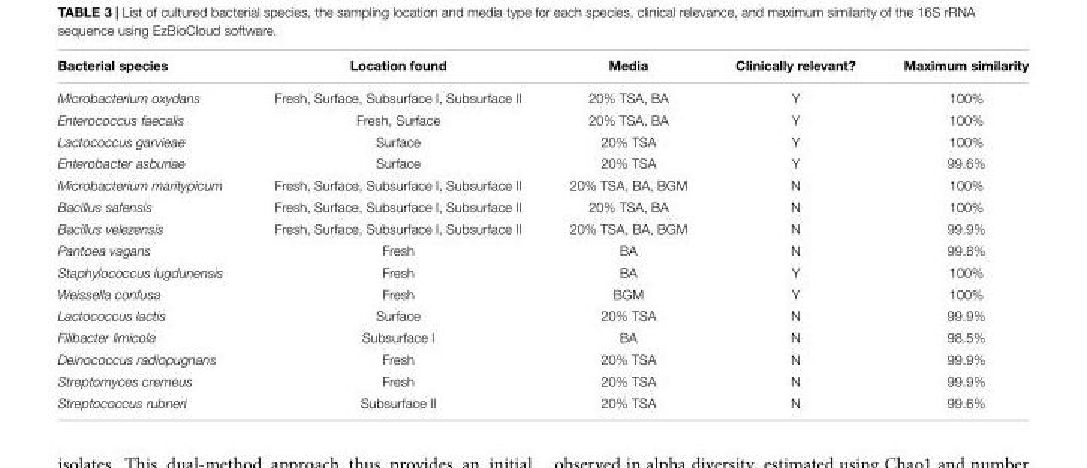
<table><thead><tr><td>Bacterial species</td><td>Location found</td><td>Media</td><td>Clinically relevant?</td><td>Maximum similarity</td></tr></thead><tbody><tr><td>Microbacterium oxydans</td><td>Fresh, Surface, Subsurface I, Subsurface II</td><td>20% TSA, BA</td><td>Y</td><td>100%</td></tr><tr><td>Enterococcus faecalis</td><td>Fresh, Surface</td><td>20% TSA, BA</td><td>Y</td><td>100%</td></tr><tr><td>Lactococcus garvieae</td><td>Surface</td><td>20% TSA</td><td>Y</td><td>100%</td></tr><tr><td>Enterobacter asburiae</td><td>Surface</td><td>20% TSA</td><td>Y</td><td>99.6%</td></tr><tr><td>Microbacterium maritypicum</td><td>Fresh, Surface, Subsurface I, Subsurface II</td><td>20% TSA, BA, BGM</td><td>N</td><td>100%</td></tr><tr><td>Bacillus safensis</td><td>Fresh, Surface, Subsurface I, Subsurface II</td><td>20% TSA, BA</td><td>N</td><td>100%</td></tr><tr><td>Bacillus velezensis</td><td>Fresh, Surface, Subsurface I, Subsurface II</td><td>20% TSA, BA, BGM</td><td>N</td><td>99.9%</td></tr><tr><td>Pantoea vagans</td><td>Fresh</td><td>BA</td><td>N</td><td>99.8%</td></tr><tr><td>Staphylococcus lugdunensis</td><td>Fresh</td><td>BA</td><td>Y</td><td>100%</td></tr><tr><td>Weissella confusa</td><td>Fresh</td><td>BGM</td><td>Y</td><td>100%</td></tr><tr><td>Lactococcus lactis</td><td>Surface</td><td>20% TSA</td><td>N</td><td>99.9%</td></tr><tr><td>Filibacter limicola</td><td>Subsurface I</td><td>BA</td><td>N</td><td>98.5%</td></tr><tr><td>Deinococcus radiopugnans</td><td>Fresh</td><td>20% TSA</td><td>N</td><td>99.9%</td></tr><tr><td>Streptomyces cremeus</td><td>Fresh</td><td>20% TSA</td><td>N</td><td>99.9%</td></tr><tr><td>Streptococcus rubneri</td><td>Subsurface II</td><td>20% TSA</td><td>N</td><td>99.6%</td></tr></tbody></table>